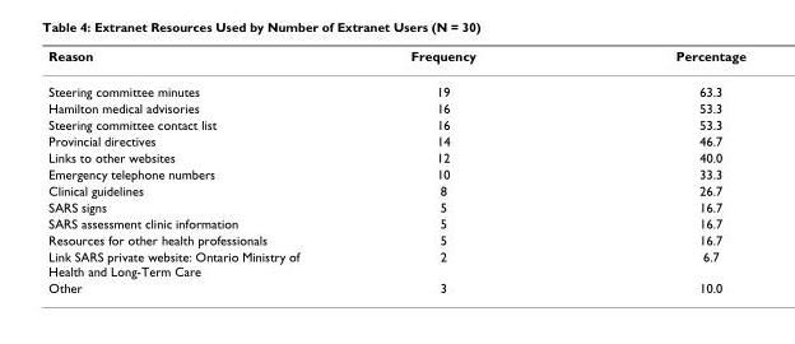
<table><thead><tr><td>Reason</td><td>Frequency</td><td>Percentage</td></tr></thead><tbody><tr><td>Steering committee minutes</td><td>19</td><td>63.3</td></tr><tr><td>Hamilton medical advisories</td><td>16</td><td>53.3</td></tr><tr><td>Steering committee contact list</td><td>16</td><td>53.3</td></tr><tr><td>Provincial directives</td><td>14</td><td>46.7</td></tr><tr><td>Links to other websites</td><td>12</td><td>40.0</td></tr><tr><td>Emergency telephone numbers</td><td>10</td><td>33.3</td></tr><tr><td>Clinical guidelines</td><td>8</td><td>26.7</td></tr><tr><td>SARS signs</td><td>5</td><td>16.7</td></tr><tr><td>SARS assessment clinic information</td><td>5</td><td>16.7</td></tr><tr><td>Resources for other health professionals</td><td>5</td><td>16.7</td></tr><tr><td>Link SARS private website: Ontario Ministry of Health and Long-Term Care</td><td>2</td><td>6.7</td></tr><tr><td>Other</td><td>3</td><td>10.0</td></tr></tbody></table>